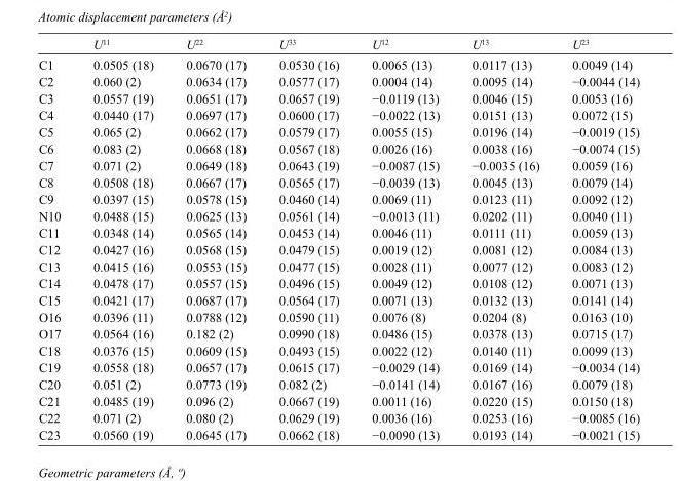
<table><thead><tr><td></td><td>U<sup>11</sup></td><td>U<sup>22</sup></td><td>U<sup>33</sup></td><td>U<sup>12</sup></td><td>U<sup>13</sup></td><td>U<sup>23</sup></td></tr></thead><tbody><tr><td>C1</td><td>0.0505 (18)</td><td>0.0670 (17)</td><td>0.0530 (16)</td><td>0.0065 (13)</td><td>0.0117 (13)</td><td>0.0049 (14)</td></tr><tr><td>C2</td><td>0.060 (2)</td><td>0.0634 (17)</td><td>0.0577 (17)</td><td>0.0004 (14)</td><td>0.0095 (14)</td><td>−0.0044 (14)</td></tr><tr><td>C3</td><td>0.0557 (19)</td><td>0.0651 (17)</td><td>0.0657 (19)</td><td>−0.0119 (13)</td><td>0.0046 (15)</td><td>0.0053 (16)</td></tr><tr><td>C4</td><td>0.0440 (17)</td><td>0.0697 (17)</td><td>0.0600 (17)</td><td>−0.0022 (13)</td><td>0.0151 (13)</td><td>0.0072 (15)</td></tr><tr><td>C5</td><td>0.065 (2)</td><td>0.0662 (17)</td><td>0.0579 (17)</td><td>0.0055 (15)</td><td>0.0196 (14)</td><td>−0.0019 (15)</td></tr><tr><td>C6</td><td>0.083 (2)</td><td>0.0668 (18)</td><td>0.0567 (18)</td><td>0.0026 (16)</td><td>0.0038 (16)</td><td>−0.0074 (15)</td></tr><tr><td>C7</td><td>0.071 (2)</td><td>0.0649 (18)</td><td>0.0643 (19)</td><td>−0.0087 (15)</td><td>−0.0035 (16)</td><td>0.0059 (16)</td></tr><tr><td>C8</td><td>0.0508 (18)</td><td>0.0667 (17)</td><td>0.0565 (17)</td><td>−0.0039 (13)</td><td>0.0045 (13)</td><td>0.0079 (14)</td></tr><tr><td>C9</td><td>0.0397 (15)</td><td>0.0578 (15)</td><td>0.0460 (14)</td><td>0.0069 (11)</td><td>0.0123 (11)</td><td>0.0092 (12)</td></tr><tr><td>N10</td><td>0.0488 (15)</td><td>0.0625 (13)</td><td>0.0561 (14)</td><td>−0.0013 (11)</td><td>0.0202 (11)</td><td>0.0040 (11)</td></tr><tr><td>C11</td><td>0.0348 (14)</td><td>0.0565 (14)</td><td>0.0453 (14)</td><td>0.0046 (11)</td><td>0.0111 (11)</td><td>0.0059 (13)</td></tr><tr><td>C12</td><td>0.0427 (16)</td><td>0.0568 (15)</td><td>0.0479 (15)</td><td>0.0019 (12)</td><td>0.0081 (12)</td><td>0.0084 (13)</td></tr><tr><td>C13</td><td>0.0415 (16)</td><td>0.0553 (15)</td><td>0.0477 (15)</td><td>0.0028 (11)</td><td>0.0077 (12)</td><td>0.0083 (12)</td></tr><tr><td>C14</td><td>0.0478 (17)</td><td>0.0557 (15)</td><td>0.0496 (15)</td><td>0.0049 (12)</td><td>0.0108 (12)</td><td>0.0071 (13)</td></tr><tr><td>C15</td><td>0.0421 (17)</td><td>0.0687 (17)</td><td>0.0564 (17)</td><td>0.0071 (13)</td><td>0.0132 (13)</td><td>0.0141 (14)</td></tr><tr><td>O16</td><td>0.0396 (11)</td><td>0.0788 (12)</td><td>0.0590 (11)</td><td>0.0076 (8)</td><td>0.0204 (8)</td><td>0.0163 (10)</td></tr><tr><td>O17</td><td>0.0564 (16)</td><td>0.182 (2)</td><td>0.0990 (18)</td><td>0.0486 (15)</td><td>0.0378 (13)</td><td>0.0715 (17)</td></tr><tr><td>C18</td><td>0.0376 (15)</td><td>0.0609 (15)</td><td>0.0493 (15)</td><td>0.0022 (12)</td><td>0.0140 (11)</td><td>0.0099 (13)</td></tr><tr><td>C19</td><td>0.0558 (18)</td><td>0.0657 (17)</td><td>0.0615 (17)</td><td>−0.0029 (14)</td><td>0.0169 (14)</td><td>−0.0034 (14)</td></tr><tr><td>C20</td><td>0.051 (2)</td><td>0.0773 (19)</td><td>0.082 (2)</td><td>−0.0141 (14)</td><td>0.0167 (16)</td><td>0.0079 (18)</td></tr><tr><td>C21</td><td>0.0485 (19)</td><td>0.096 (2)</td><td>0.0667 (19)</td><td>0.0011 (16)</td><td>0.0220 (15)</td><td>0.0150 (18)</td></tr><tr><td>C22</td><td>0.071 (2)</td><td>0.080 (2)</td><td>0.0629 (19)</td><td>0.0036 (16)</td><td>0.0253 (16)</td><td>−0.0085 (16)</td></tr><tr><td>C23</td><td>0.0560 (19)</td><td>0.0645 (17)</td><td>0.0662 (18)</td><td>−0.0090 (13)</td><td>0.0193 (14)</td><td>−0.0021 (15)</td></tr></tbody></table>